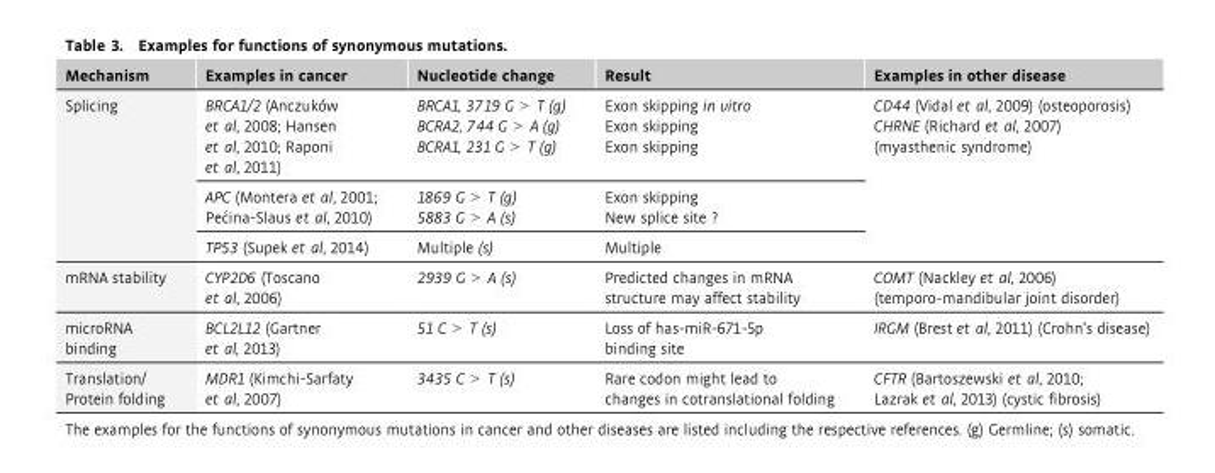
<table><thead><tr><td>Mechanism</td><td>Examples in cancer</td><td>Nucleotide change</td><td>Result</td><td>Examples in other disease</td></tr></thead><tbody><tr><td rowspan="3">Splicing</td><td>BRCA1/2 (Anczuków et al, 2008; Hansen et al, 2010; Raponi et al, 2011)</td><td>BRCA1, 3719 G &gt; T (g) BCRA2, 744 G &gt; A (g) BCRA1, 231 G &gt; T (g)</td><td>Exon skipping in vitro Exon skipping Exon skipping</td><td rowspan="3">CD44 (Vidal et al, 2009) (osteoporosis) CHRNE (Richard et al, 2007) (myasthenic syndrome)</td></tr><tr><td>APC (Montera et al, 2001; Pe�cina-Slaus et al, 2010)</td><td>1869 G &gt; T (g) 5883 G &gt; A (s)</td><td>Exon skipping New splice site ?</td></tr><tr><td>TP53 (Supek et al, 2014)</td><td>Multiple (s)</td><td>Multiple</td></tr><tr><td>mRNA stability</td><td>CYP2D6 (Toscano et al, 2006)</td><td>2939 G &gt; A (s)</td><td>Predicted changes in mRNA structure may affect stability</td><td>COMT (Nackley et al, 2006) (temporo-mandibular joint disorder)</td></tr><tr><td>microRNA binding</td><td>BCL2L12 (Gartner et al, 2013)</td><td>51 C &gt; T (s)</td><td>Loss of has-miR-671-5p binding site</td><td>IRGM (Brest et al, 2011) (Crohn’s disease)</td></tr><tr><td>Translation/ Protein folding</td><td>MDR1 (Kimchi-Sarfaty et al, 2007)</td><td>3435 C &gt; T (s)</td><td>Rare codon might lead to changes in cotranslational folding</td><td>CFTR (Bartoszewski et al, 2010; Lazrak et al, 2013) (cystic fibrosis)</td></tr></tbody></table>